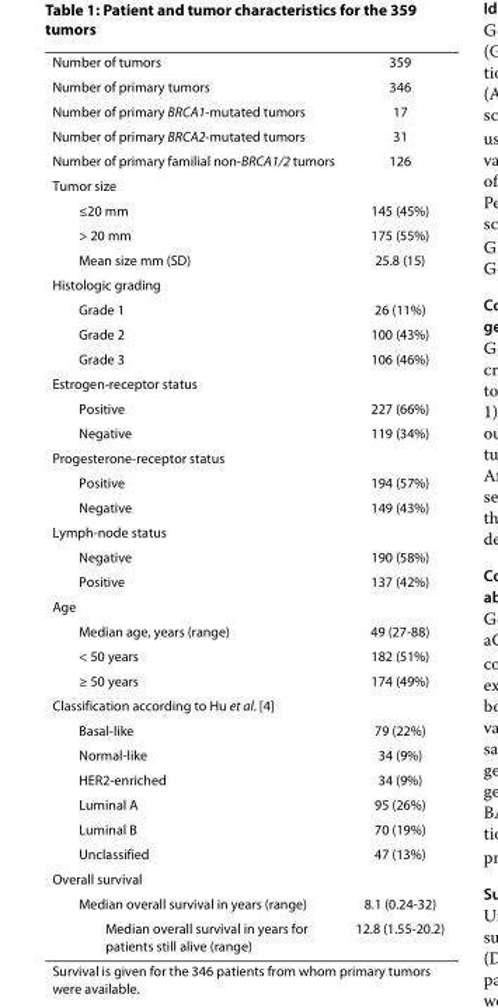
<table><tbody><tr><td>Number of tumors</td><td>359</td></tr><tr><td>Number of primary tumors</td><td>346</td></tr><tr><td>Number of primary BRCA1-mutated tumors</td><td>17</td></tr><tr><td>Number of primary BRCA2-mutated tumors</td><td>31</td></tr><tr><td>Number of primary familial non-BRCA1/2 tumors</td><td>126</td></tr><tr><td colspan="2">Tumor size</td></tr><tr><td>≤20 mm</td><td>145 (45%)</td></tr><tr><td>&gt; 20 mm</td><td>175 (55%)</td></tr><tr><td>Mean size mm (SD)</td><td>25.8 (15)</td></tr><tr><td colspan="2">Histologic grading</td></tr><tr><td>Grade 1</td><td>26 (11%)</td></tr><tr><td>Grade 2</td><td>100 (43%)</td></tr><tr><td>Grade 3</td><td>106 (46%)</td></tr><tr><td colspan="2">Estrogen-receptor status</td></tr><tr><td>Positive</td><td>227 (66%)</td></tr><tr><td>Negative</td><td>119 (34%)</td></tr><tr><td colspan="2">Progesterone-receptor status</td></tr><tr><td>Positive</td><td>194 (57%)</td></tr><tr><td>Negative</td><td>149 (43%)</td></tr><tr><td colspan="2">Lymph-node status</td></tr><tr><td>Negative</td><td>190 (58%)</td></tr><tr><td>Positive</td><td>137 (42%)</td></tr><tr><td colspan="2">Age</td></tr><tr><td>Median age, years (range)</td><td>49 (27-88)</td></tr><tr><td>&lt; 50 years</td><td>182 (51%)</td></tr><tr><td>≥ 50 years</td><td>174 (49%)</td></tr><tr><td colspan="2">Classification according to Hu et al. [4]</td></tr><tr><td>Basal-like</td><td>79 (22%)</td></tr><tr><td>Normal-like</td><td>34 (9%)</td></tr><tr><td>HER2-enriched</td><td>34 (9%)</td></tr><tr><td>Luminal A</td><td>95 (26%)</td></tr><tr><td>Luminal B</td><td>70 (19%)</td></tr><tr><td>Unclassified</td><td>47 (13%)</td></tr><tr><td colspan="2">Overall survival</td></tr><tr><td>Median overall survival in years (range)</td><td>8.1 (0.24-32)</td></tr><tr><td>Median overall survival in years for patients still alive (range)</td><td>12.8 (1.55-20.2)</td></tr></tbody></table>